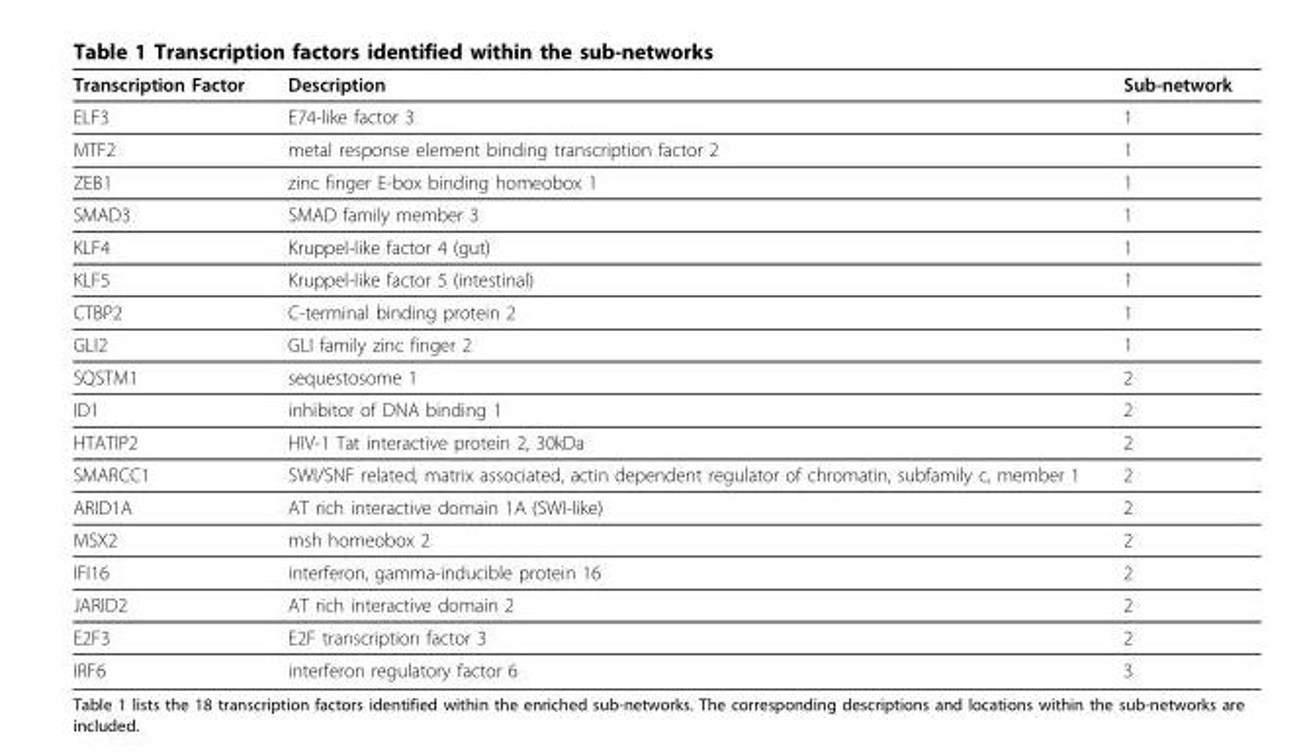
<table><thead><tr><td>Transcription Factor</td><td>Description</td><td>Sub-network</td></tr></thead><tbody><tr><td>ELF3</td><td>E74-like factor 3</td><td>1</td></tr><tr><td>MTF2</td><td>metal response element binding transcription factor 2</td><td>1</td></tr><tr><td>ZEB1</td><td>zinc finger E-box binding homeobox 1</td><td>1</td></tr><tr><td>SMAD3</td><td>SMAD family member 3</td><td>1</td></tr><tr><td>KLF4</td><td>Kruppel-like factor 4 (gut)</td><td>1</td></tr><tr><td>KLF5</td><td>Kruppel-like factor 5 (intestinal)</td><td>1</td></tr><tr><td>CTBP2</td><td>C-terminal binding protein 2</td><td>1</td></tr><tr><td>GLI2</td><td>GLI family zinc finger 2</td><td>1</td></tr><tr><td>SQSTM1</td><td>sequestosome 1</td><td>2</td></tr><tr><td>ID1</td><td>inhibitor of DNA binding 1</td><td>2</td></tr><tr><td>HTATIP2</td><td>HIV-1 Tat interactive protein 2, 30kDa</td><td>2</td></tr><tr><td>SMARCC1</td><td>SWI/SNF related, matrix associated, actin dependent regulator of chromatin, subfamily c, member 1</td><td>2</td></tr><tr><td>ARID1A</td><td>AT rich interactive domain 1A (SWI-like)</td><td>2</td></tr><tr><td>MSX2</td><td>msh homeobox 2</td><td>2</td></tr><tr><td>IFI16</td><td>interferon, gamma-inducible protein 16</td><td>2</td></tr><tr><td>JARID2</td><td>AT rich interactive domain 2</td><td>2</td></tr><tr><td>E2F3</td><td>E2F transcription factor 3</td><td>2</td></tr><tr><td>IRF6</td><td>interferon regulatory factor 6</td><td>3</td></tr></tbody></table>